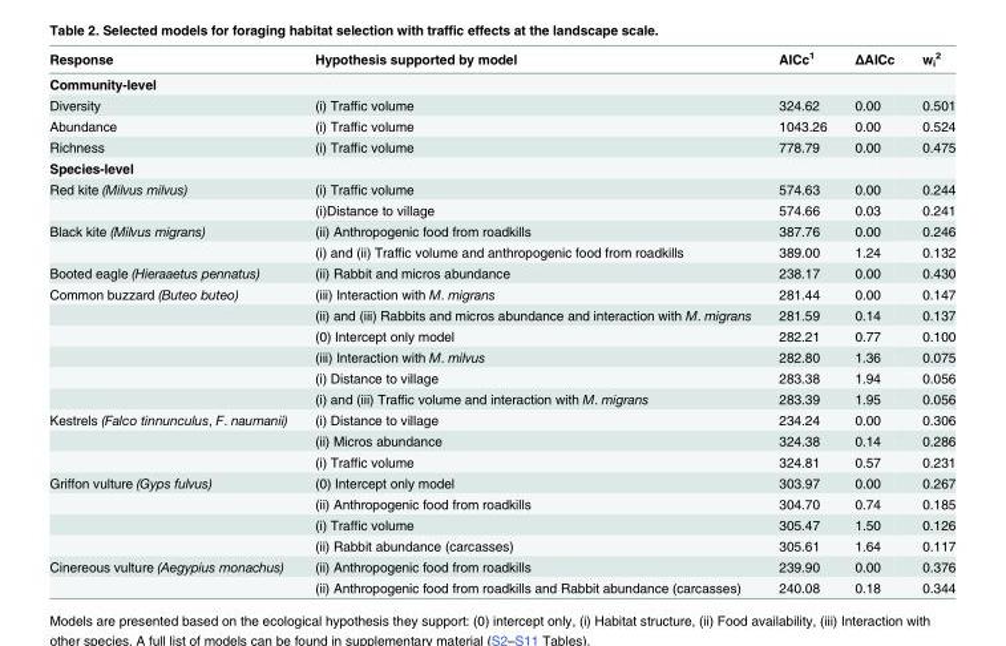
<table><thead><tr><td>Response</td><td>Hypothesis supported by model</td><td>AICc<sup>1</sup></td><td>ΔAICc</td><td>w<sub>i</sub> <sup>2</sup></td></tr></thead><tbody><tr><td colspan="5">Community-level</td></tr><tr><td>Diversity</td><td>(i) Traffic volume</td><td>324.62</td><td>0.00</td><td>0.501</td></tr><tr><td>Abundance</td><td>(i) Traffic volume</td><td>1043.26</td><td>0.00</td><td>0.524</td></tr><tr><td>Richness</td><td>(i) Traffic volume</td><td>778.79</td><td>0.00</td><td>0.475</td></tr><tr><td colspan="5">Species-level</td></tr><tr><td rowspan="2">Red kite (Milvus milvus)</td><td>(i) Traffic volume</td><td>574.63</td><td>0.00</td><td>0.244</td></tr><tr><td>(i)Distance to village</td><td>574.66</td><td>0.03</td><td>0.241</td></tr><tr><td rowspan="2">Black kite (Milvus migrans)</td><td>(ii) Anthropogenic food from roadkills</td><td>387.76</td><td>0.00</td><td>0.246</td></tr><tr><td>(i) and (ii) Traffic volume and anthropogenic food from roadkills</td><td>389.00</td><td>1.24</td><td>0.132</td></tr><tr><td>Booted eagle (Hieraaetus pennatus)</td><td>(ii) Rabbit and micros abundance</td><td>238.17</td><td>0.00</td><td>0.430</td></tr><tr><td rowspan="6">Common buzzard (Buteo buteo)</td><td>(iii) Interaction with M. migrans</td><td>281.44</td><td>0.00</td><td>0.147</td></tr><tr><td>(ii) and (iii) Rabbits and micros abundance and interaction with M. migrans</td><td>281.59</td><td>0.14</td><td>0.137</td></tr><tr><td>(0) Intercept only model</td><td>282.21</td><td>0.77</td><td>0.100</td></tr><tr><td>(iii) Interaction with M. milvus</td><td>282.80</td><td>1.36</td><td>0.075</td></tr><tr><td>(i) Distance to village</td><td>283.38</td><td>1.94</td><td>0.056</td></tr><tr><td>(i) and (iii) Traffic volume and interaction with M. migrans</td><td>283.39</td><td>1.95</td><td>0.056</td></tr><tr><td rowspan="3">Kestrels (Falco tinnunculus, F. naumanii)</td><td>(i) Distance to village</td><td>234.24</td><td>0.00</td><td>0.306</td></tr><tr><td>(ii) Micros abundance</td><td>324.38</td><td>0.14</td><td>0.286</td></tr><tr><td>(i) Traffic volume</td><td>324.81</td><td>0.57</td><td>0.231</td></tr><tr><td rowspan="4">Griffon vulture (Gyps fulvus)</td><td>(0) Intercept only model</td><td>303.97</td><td>0.00</td><td>0.267</td></tr><tr><td>(ii) Anthropogenic food from roadkills</td><td>304.70</td><td>0.74</td><td>0.185</td></tr><tr><td>(i) Traffic volume</td><td>305.47</td><td>1.50</td><td>0.126</td></tr><tr><td>(ii) Rabbit abundance (carcasses)</td><td>305.61</td><td>1.64</td><td>0.117</td></tr><tr><td rowspan="2">Cinereous vulture (Aegypius monachus)</td><td>(ii) Anthropogenic food from roadkills</td><td>239.90</td><td>0.00</td><td>0.376</td></tr><tr><td>(ii) Anthropogenic food from roadkills and Rabbit abundance (carcasses)</td><td>240.08</td><td>0.18</td><td>0.344</td></tr></tbody></table>